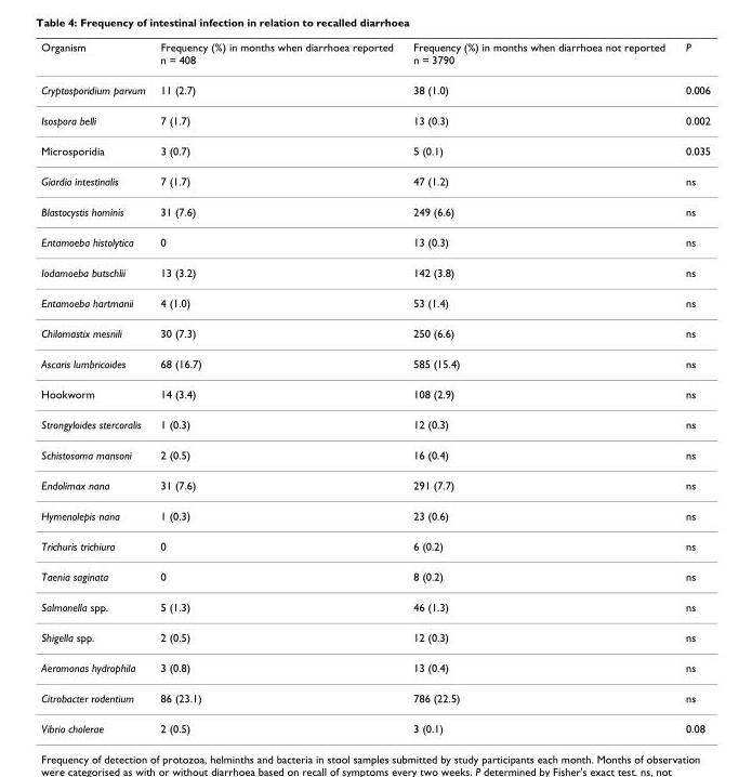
<table><thead><tr><td>Organism</td><td>Frequency (%) in months when diarrhoea reported n = 408</td><td>Frequency (%) in months when diarrhoea not reported n = 3790</td><td>P</td></tr></thead><tbody><tr><td>Cryptosporidium parvum</td><td>11 (2.7)</td><td>38 (1.0)</td><td>0.006</td></tr><tr><td>Isospora belli</td><td>7 (1.7)</td><td>13 (0.3)</td><td>0.002</td></tr><tr><td>Microsporidia</td><td>3 (0.7)</td><td>5 (0.1)</td><td>0.035</td></tr><tr><td>Giardia intestinalis</td><td>7 (1.7)</td><td>47 (1.2)</td><td>ns</td></tr><tr><td>Blastocystis hominis</td><td>31 (7.6)</td><td>249 (6.6)</td><td>ns</td></tr><tr><td>Entamoeba histolytica</td><td>0</td><td>13 (0.3)</td><td>ns</td></tr><tr><td>Iodamoeba butschlii</td><td>13 (3.2)</td><td>142 (3.8)</td><td>ns</td></tr><tr><td>Entamoeba hartmanii</td><td>4 (1.0)</td><td>53 (1.4)</td><td>ns</td></tr><tr><td>Chilomastix mesnili</td><td>30 (7.3)</td><td>250 (6.6)</td><td>ns</td></tr><tr><td>Ascaris lumbricoides</td><td>68 (16.7)</td><td>585 (15.4)</td><td>ns</td></tr><tr><td>Hookworm</td><td>14 (3.4)</td><td>108 (2.9)</td><td>ns</td></tr><tr><td>Strongyloides stercoralis</td><td>1 (0.3)</td><td>12 (0.3)</td><td>ns</td></tr><tr><td>Schistosoma mansoni</td><td>2 (0.5)</td><td>16 (0.4)</td><td>ns</td></tr><tr><td>Endolimax nana</td><td>31 (7.6)</td><td>291 (7.7)</td><td>ns</td></tr><tr><td>Hymenolepis nana</td><td>1 (0.3)</td><td>23 (0.6)</td><td>ns</td></tr><tr><td>Trichuris trichiura</td><td>0</td><td>6 (0.2)</td><td>ns</td></tr><tr><td>Taenia saginata</td><td>0</td><td>8 (0.2)</td><td>ns</td></tr><tr><td>Salmonella spp.</td><td>5 (1.3)</td><td>46 (1.3)</td><td>ns</td></tr><tr><td>Shigella spp.</td><td>2 (0.5)</td><td>12 (0.3)</td><td>ns</td></tr><tr><td>Aeromonas hydrophila</td><td>3 (0.8)</td><td>13 (0.4)</td><td>ns</td></tr><tr><td>Citrobacter rodentium</td><td>86 (23.1)</td><td>786 (22.5)</td><td>ns</td></tr><tr><td>Vibrio cholerae</td><td>2 (0.5)</td><td>3 (0.1)</td><td>0.08</td></tr></tbody></table>